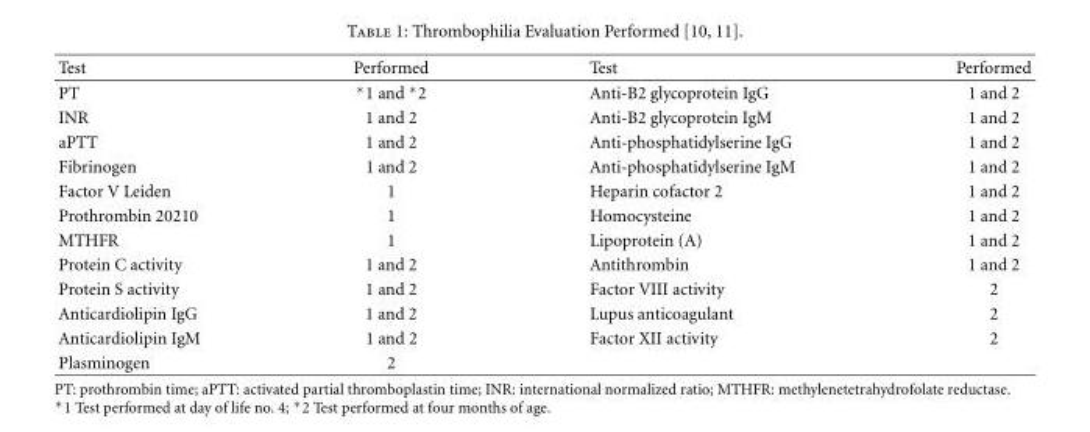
<table><thead><tr><td>Test</td><td>Performed</td><td>Test</td><td>Performed</td></tr></thead><tbody><tr><td>PT</td><td>∗1 and ∗2</td><td>Anti-B2 glycoprotein IgG</td><td>1 and 2</td></tr><tr><td>INR</td><td>1 and 2</td><td>Anti-B2 glycoprotein IgM</td><td>1 and 2</td></tr><tr><td>aPTT</td><td>1 and 2</td><td>Anti-phosphatidylserine IgG</td><td>1 and 2</td></tr><tr><td>Fibrinogen</td><td>1 and 2</td><td>Anti-phosphatidylserine IgM</td><td>1 and 2</td></tr><tr><td>Factor V Leiden</td><td>1</td><td>Heparin cofactor 2</td><td>1 and 2</td></tr><tr><td>Prothrombin 20210</td><td>1</td><td>Homocysteine</td><td>1 and 2</td></tr><tr><td>MTHFR</td><td>1</td><td>Lipoprotein (A)</td><td>1 and 2</td></tr><tr><td>Protein C activity</td><td>1 and 2</td><td>Antithrombin</td><td>1 and 2</td></tr><tr><td>Protein S activity</td><td>1 and 2</td><td>Factor VIII activity</td><td>2</td></tr><tr><td>Anticardiolipin IgG</td><td>1 and 2</td><td>Lupus anticoagulant</td><td>2</td></tr><tr><td>Anticardiolipin IgM</td><td>1 and 2</td><td>Factor XII activity</td><td>2</td></tr><tr><td>Plasminogen</td><td>2</td><td></td><td></td></tr></tbody></table>